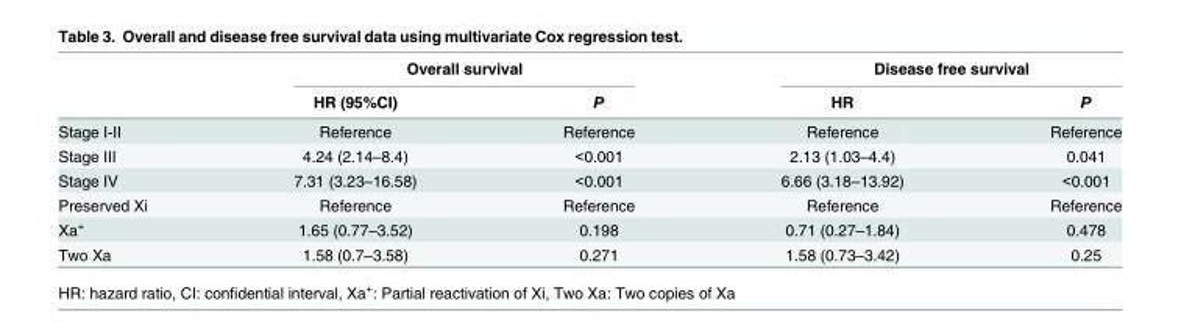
<table><thead><tr><td rowspan="2"></td><td colspan="2">Overall survival</td><td colspan="2">Disease free survival</td></tr><tr><td>HR (95%CI)</td><td>P</td><td>HR</td><td>P</td></tr></thead><tbody><tr><td>Stage I-II</td><td>Reference</td><td>Reference</td><td>Reference</td><td>Reference</td></tr><tr><td>Stage III</td><td>4.24 (2.14–8.4)</td><td>&lt;0.001</td><td>2.13 (1.03–4.4)</td><td>0.041</td></tr><tr><td>Stage IV</td><td>7.31 (3.23–16.58)</td><td>&lt;0.001</td><td>6.66 (3.18–13.92)</td><td>&lt;0.001</td></tr><tr><td>Preserved Xi</td><td>Reference</td><td>Reference</td><td>Reference</td><td>Reference</td></tr><tr><td>Xa<sup>+</sup></td><td>1.65 (0.77–3.52)</td><td>0.198</td><td>0.71 (0.27–1.84)</td><td>0.478</td></tr><tr><td>Two Xa</td><td>1.58 (0.7–3.58)</td><td>0.271</td><td>1.58 (0.73–3.42)</td><td>0.25</td></tr></tbody></table>